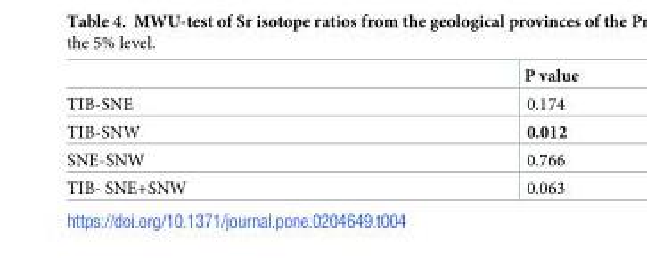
<table><thead><tr><td></td><td>P value</td></tr></thead><tbody><tr><td>TIB-SNE</td><td>0.174</td></tr><tr><td>TIB-SNW</td><td>0.012</td></tr><tr><td>SNE-SNW</td><td>0.766</td></tr><tr><td>TIB- SNE+SNW</td><td>0.063</td></tr></tbody></table>